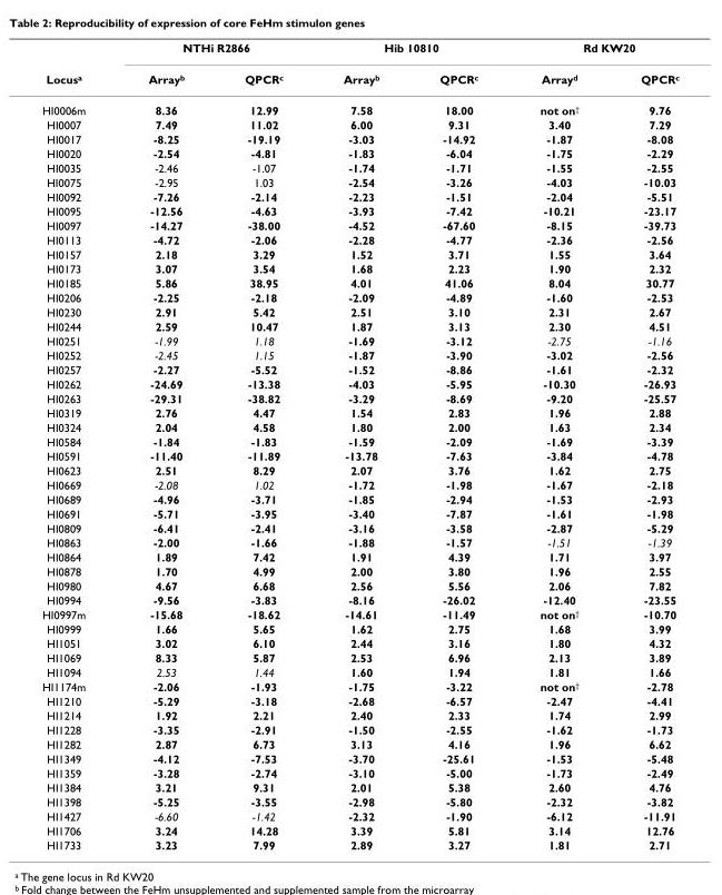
<table><thead><tr><td rowspan="2">Locus<sup>a</sup></td><td colspan="2">NTHi R2866</td><td colspan="2">Hib 10810</td><td colspan="2">Rd KW20</td></tr><tr><td>Array<sup>b</sup></td><td>QPCR<sup>c</sup></td><td>Array<sup>b</sup></td><td>QPCR<sup>c</sup></td><td>Array<sup>d</sup></td><td>QPCR<sup>c</sup></td></tr></thead><tbody><tr><td>HI0006m</td><td>8.36</td><td>12.99</td><td>7.58</td><td>18.00</td><td>not on<sup>†</sup></td><td>9.76</td></tr><tr><td>HI0007</td><td>7.49</td><td>11.02</td><td>6.00</td><td>9.31</td><td>3.40</td><td>7.29</td></tr><tr><td>HI0017</td><td>-8.25</td><td>-19.19</td><td>-3.03</td><td>-14.92</td><td>-1.87</td><td>-8.08</td></tr><tr><td>HI0020</td><td>-2.54</td><td>-4.81</td><td>-1.83</td><td>-6.04</td><td>-1.75</td><td>-2.29</td></tr><tr><td>HI0035</td><td>-2.46</td><td>-1.07</td><td>-1.74</td><td>-1.71</td><td>-1.55</td><td>-2.55</td></tr><tr><td>HI0075</td><td>-2.95</td><td>1.03</td><td>-2.54</td><td>-3.26</td><td>-4.03</td><td>-10.03</td></tr><tr><td>HI0092</td><td>-7.26</td><td>-2.14</td><td>-2.23</td><td>-1.51</td><td>-2.04</td><td>-5.51</td></tr><tr><td>HI0095</td><td>-12.56</td><td>-4.63</td><td>-3.93</td><td>-7.42</td><td>-10.21</td><td>-23.17</td></tr><tr><td>HI0097</td><td>-14.27</td><td>-38.00</td><td>-4.52</td><td>-67.60</td><td>-8.15</td><td>-39.73</td></tr><tr><td>HI0113</td><td>-4.72</td><td>-2.06</td><td>-2.28</td><td>-4.77</td><td>-2.36</td><td>-2.56</td></tr><tr><td>HI0157</td><td>2.18</td><td>3.29</td><td>1.52</td><td>3.71</td><td>1.55</td><td>3.64</td></tr><tr><td>HI0173</td><td>3.07</td><td>3.54</td><td>1.68</td><td>2.23</td><td>1.90</td><td>2.32</td></tr><tr><td>HI0185</td><td>5.86</td><td>38.95</td><td>4.01</td><td>41.06</td><td>8.04</td><td>30.77</td></tr><tr><td>HI0206</td><td>-2.25</td><td>-2.18</td><td>-2.09</td><td>-4.89</td><td>-1.60</td><td>-2.53</td></tr><tr><td>HI0230</td><td>2.91</td><td>5.42</td><td>2.51</td><td>3.10</td><td>2.31</td><td>2.67</td></tr><tr><td>HI0244</td><td>2.59</td><td>10.47</td><td>1.87</td><td>3.13</td><td>2.30</td><td>4.51</td></tr><tr><td>HI0251</td><td>-1.99</td><td>1.18</td><td>-1.69</td><td>-3.12</td><td>-2.75</td><td>-1.16</td></tr><tr><td>HI0252</td><td>-2.45</td><td>1.15</td><td>-1.87</td><td>-3.90</td><td>-3.02</td><td>-2.56</td></tr><tr><td>HI0257</td><td>-2.27</td><td>-5.52</td><td>-1.52</td><td>-8.86</td><td>-1.61</td><td>-2.32</td></tr><tr><td>HI0262</td><td>-24.69</td><td>-13.38</td><td>-4.03</td><td>-5.95</td><td>-10.30</td><td>-26.93</td></tr><tr><td>HI0263</td><td>-29.31</td><td>-38.82</td><td>-3.29</td><td>-8.69</td><td>-9.20</td><td>-25.57</td></tr><tr><td>HI0319</td><td>2.76</td><td>4.47</td><td>1.54</td><td>2.83</td><td>1.96</td><td>2.88</td></tr><tr><td>HI0324</td><td>2.04</td><td>4.58</td><td>1.80</td><td>2.00</td><td>1.63</td><td>2.34</td></tr><tr><td>HI0584</td><td>-1.84</td><td>-1.83</td><td>-1.59</td><td>-2.09</td><td>-1.69</td><td>-3.39</td></tr><tr><td>HI0591</td><td>-11.40</td><td>-11.89</td><td>-13.78</td><td>-7.63</td><td>-3.84</td><td>-4.78</td></tr><tr><td>HI0623</td><td>2.51</td><td>8.29</td><td>2.07</td><td>3.76</td><td>1.62</td><td>2.75</td></tr><tr><td>HI0669</td><td>-2.08</td><td>1.02</td><td>-1.72</td><td>-1.98</td><td>-1.67</td><td>-2.18</td></tr><tr><td>HI0689</td><td>-4.96</td><td>-3.71</td><td>-1.85</td><td>-2.94</td><td>-1.53</td><td>-2.93</td></tr><tr><td>HI0691</td><td>-5.71</td><td>-3.95</td><td>-3.40</td><td>-7.87</td><td>-1.61</td><td>-1.98</td></tr><tr><td>HI0809</td><td>-6.41</td><td>-2.41</td><td>-3.16</td><td>-3.58</td><td>-2.87</td><td>-5.29</td></tr><tr><td>HI0863</td><td>-2.00</td><td>-1.66</td><td>-1.88</td><td>-1.57</td><td>-1.51</td><td>-1.39</td></tr><tr><td>HI0864</td><td>1.89</td><td>7.42</td><td>1.91</td><td>4.39</td><td>1.71</td><td>3.97</td></tr><tr><td>HI0878</td><td>1.70</td><td>4.99</td><td>2.00</td><td>3.80</td><td>1.96</td><td>2.55</td></tr><tr><td>HI0980</td><td>4.67</td><td>6.68</td><td>2.56</td><td>5.56</td><td>2.06</td><td>7.82</td></tr><tr><td>HI0994</td><td>-9.56</td><td>-3.83</td><td>-8.16</td><td>-26.02</td><td>-12.40</td><td>-23.55</td></tr><tr><td>HI0997m</td><td>-15.68</td><td>-18.62</td><td>-14.61</td><td>-11.49</td><td>not on<sup>†</sup></td><td>-10.70</td></tr><tr><td>HI0999</td><td>1.66</td><td>5.65</td><td>1.62</td><td>2.75</td><td>1.68</td><td>3.99</td></tr><tr><td>HI1051</td><td>3.02</td><td>6.10</td><td>2.44</td><td>3.16</td><td>1.80</td><td>4.32</td></tr><tr><td>HI1069</td><td>8.33</td><td>5.87</td><td>2.53</td><td>6.96</td><td>2.13</td><td>3.89</td></tr><tr><td>HI1094</td><td>2.53</td><td>1.44</td><td>1.60</td><td>1.94</td><td>1.81</td><td>1.66</td></tr><tr><td>HI1174m</td><td>-2.06</td><td>-1.93</td><td>-1.75</td><td>-3.22</td><td>not on<sup>†</sup></td><td>-2.78</td></tr><tr><td>HI1210</td><td>-5.29</td><td>-3.18</td><td>-2.68</td><td>-6.57</td><td>-2.47</td><td>-4.41</td></tr><tr><td>HI1214</td><td>1.92</td><td>2.21</td><td>2.40</td><td>2.33</td><td>1.74</td><td>2.99</td></tr><tr><td>HI1228</td><td>-3.35</td><td>-2.91</td><td>-1.50</td><td>-2.55</td><td>-1.62</td><td>-1.73</td></tr><tr><td>HI1282</td><td>2.87</td><td>6.73</td><td>3.13</td><td>4.16</td><td>1.96</td><td>6.62</td></tr><tr><td>HI1349</td><td>-4.12</td><td>-7.53</td><td>-3.70</td><td>-25.61</td><td>-1.53</td><td>-5.48</td></tr><tr><td>HI1359</td><td>-3.28</td><td>-2.74</td><td>-3.10</td><td>-5.00</td><td>-1.73</td><td>-2.49</td></tr><tr><td>HI1384</td><td>3.21</td><td>9.31</td><td>2.01</td><td>5.38</td><td>2.60</td><td>4.76</td></tr><tr><td>HI1398</td><td>-5.25</td><td>-3.55</td><td>-2.98</td><td>-5.80</td><td>-2.32</td><td>-3.82</td></tr><tr><td>HI1427</td><td>-6.60</td><td>-1.42</td><td>-2.32</td><td>-1.90</td><td>-6.12</td><td>-11.91</td></tr><tr><td>HI1706</td><td>3.24</td><td>14.28</td><td>3.39</td><td>5.81</td><td>3.14</td><td>12.76</td></tr><tr><td>HI1733</td><td>3.23</td><td>7.99</td><td>2.89</td><td>3.27</td><td>1.81</td><td>2.71</td></tr></tbody></table>